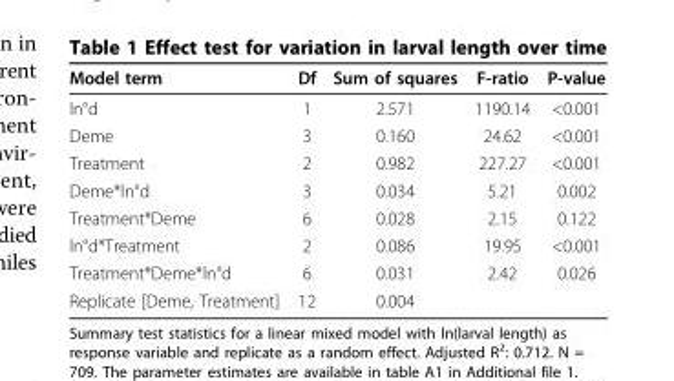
<table><thead><tr><td>Model term</td><td>Df</td><td>Sum of squares</td><td>F-ratio</td><td>P-value</td></tr></thead><tbody><tr><td>ln°d</td><td>1</td><td>2.571</td><td>1190.14</td><td>&lt;0.001</td></tr><tr><td>Deme</td><td>3</td><td>0.160</td><td>24.62</td><td>&lt;0.001</td></tr><tr><td>Treatment</td><td>2</td><td>0.982</td><td>227.27</td><td>&lt;0.001</td></tr><tr><td>Deme*ln°d</td><td>3</td><td>0.034</td><td>5.21</td><td>0.002</td></tr><tr><td>Treatment*Deme</td><td>6</td><td>0.028</td><td>2.15</td><td>0.122</td></tr><tr><td>ln°d*Treatment</td><td>2</td><td>0.086</td><td>19.95</td><td>&lt;0.001</td></tr><tr><td>Treatment*Deme*ln°d</td><td>6</td><td>0.031</td><td>2.42</td><td>0.026</td></tr><tr><td>Replicate [Deme, Treatment]</td><td>12</td><td>0.004</td><td></td><td></td></tr></tbody></table>